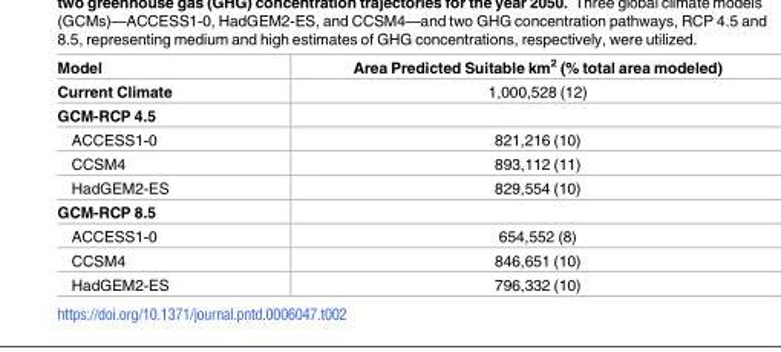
<table><thead><tr><td>Model</td><td>Area Predicted Suitable km<sup>2</sup> (% total area modeled)</td></tr></thead><tbody><tr><td>Current Climate</td><td>1,000,528 (12)</td></tr><tr><td colspan="2">GCM-RCP 4.5</td></tr><tr><td>ACCESS1-0</td><td>821,216 (10)</td></tr><tr><td>CCSM4</td><td>893,112 (11)</td></tr><tr><td>HadGEM2-ES</td><td>829,554 (10)</td></tr><tr><td colspan="2">GCM-RCP 8.5</td></tr><tr><td>ACCESS1-0</td><td>654,552 (8)</td></tr><tr><td>CCSM4</td><td>846,651 (10)</td></tr><tr><td>HadGEM2-ES</td><td>796,332 (10)</td></tr></tbody></table>